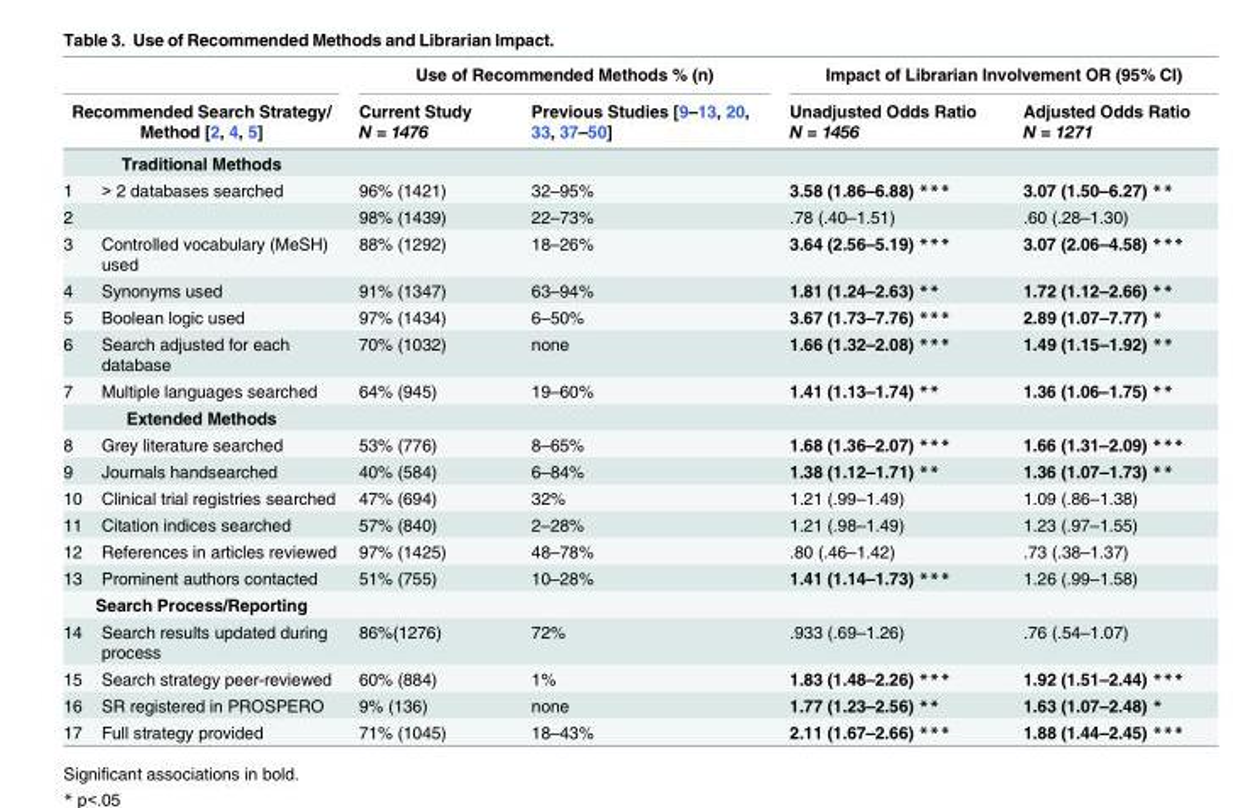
<table><thead><tr><td></td><td></td><td colspan="2">Use of Recommended Methods % (n)</td><td colspan="2">Impact of Librarian Involvement OR (95% CI)</td></tr><tr><td colspan="2">Recommended Search Strategy/ Method [2, 4, 5]</td><td>Current Study N = 1476</td><td>Previous Studies [9–13, 20, 33, 37–50]</td><td>Unadjusted Odds Ratio N = 1456</td><td>Adjusted Odds Ratio N = 1271</td></tr></thead><tbody><tr><td colspan="6">Traditional Methods</td></tr><tr><td>1</td><td>&gt; 2 databases searched</td><td>96% (1421)</td><td>32–95%</td><td>3.58 (1.86–6.88) ***</td><td>3.07 (1.50–6.27) **</td></tr><tr><td>2</td><td></td><td>98% (1439)</td><td>22–73%</td><td>.78 (.40–1.51)</td><td>.60 (.28–1.30)</td></tr><tr><td>3</td><td>Controlled vocabulary (MeSH) used</td><td>88% (1292)</td><td>18–26%</td><td>3.64 (2.56–5.19) ***</td><td>3.07 (2.06–4.58) ***</td></tr><tr><td>4</td><td>Synonyms used</td><td>91% (1347)</td><td>63–94%</td><td>1.81 (1.24–2.63) **</td><td>1.72 (1.12–2.66) **</td></tr><tr><td>5</td><td>Boolean logic used</td><td>97% (1434)</td><td>6–50%</td><td>3.67 (1.73–7.76) ***</td><td>2.89 (1.07–7.77) *</td></tr><tr><td>6</td><td>Search adjusted for each database</td><td>70% (1032)</td><td>none</td><td>1.66 (1.32–2.08) ***</td><td>1.49 (1.15–1.92) **</td></tr><tr><td>7</td><td>Multiple languages searched</td><td>64% (945)</td><td>19–60%</td><td>1.41 (1.13–1.74) **</td><td>1.36 (1.06–1.75) **</td></tr><tr><td colspan="6">Extended Methods</td></tr><tr><td>8</td><td>Grey literature searched</td><td>53% (776)</td><td>8–65%</td><td>1.68 (1.36–2.07) ***</td><td>1.66 (1.31–2.09) ***</td></tr><tr><td>9</td><td>Journals handsearched</td><td>40% (584)</td><td>6–84%</td><td>1.38 (1.12–1.71) **</td><td>1.36 (1.07–1.73) **</td></tr><tr><td>10</td><td>Clinical trial registries searched</td><td>47% (694)</td><td>32%</td><td>1.21 (.99–1.49)</td><td>1.09 (.86–1.38)</td></tr><tr><td>11</td><td>Citation indices searched</td><td>57% (840)</td><td>2–28%</td><td>1.21 (.98–1.49)</td><td>1.23 (.97–1.55)</td></tr><tr><td>12</td><td>References in articles reviewed</td><td>97% (1425)</td><td>48–78%</td><td>.80 (.46–1.42)</td><td>.73 (.38–1.37)</td></tr><tr><td>13</td><td>Prominent authors contacted</td><td>51% (755)</td><td>10–28%</td><td>1.41 (1.14–1.73) ***</td><td>1.26 (.99–1.58)</td></tr><tr><td colspan="6">Search Process/Reporting</td></tr><tr><td>14</td><td>Search results updated during process</td><td>86%(1276)</td><td>72%</td><td>.933 (.69–1.26)</td><td>.76 (.54–1.07)</td></tr><tr><td>15</td><td>Search strategy peer-reviewed</td><td>60% (884)</td><td>1%</td><td>1.83 (1.48–2.26) ***</td><td>1.92 (1.51–2.44) ***</td></tr><tr><td>16</td><td>SR registered in PROSPERO</td><td>9% (136)</td><td>none</td><td>1.77 (1.23–2.56) **</td><td>1.63 (1.07–2.48) *</td></tr><tr><td>17</td><td>Full strategy provided</td><td>71% (1045)</td><td>18–43%</td><td>2.11 (1.67–2.66) ***</td><td>1.88 (1.44–2.45) ***</td></tr></tbody></table>